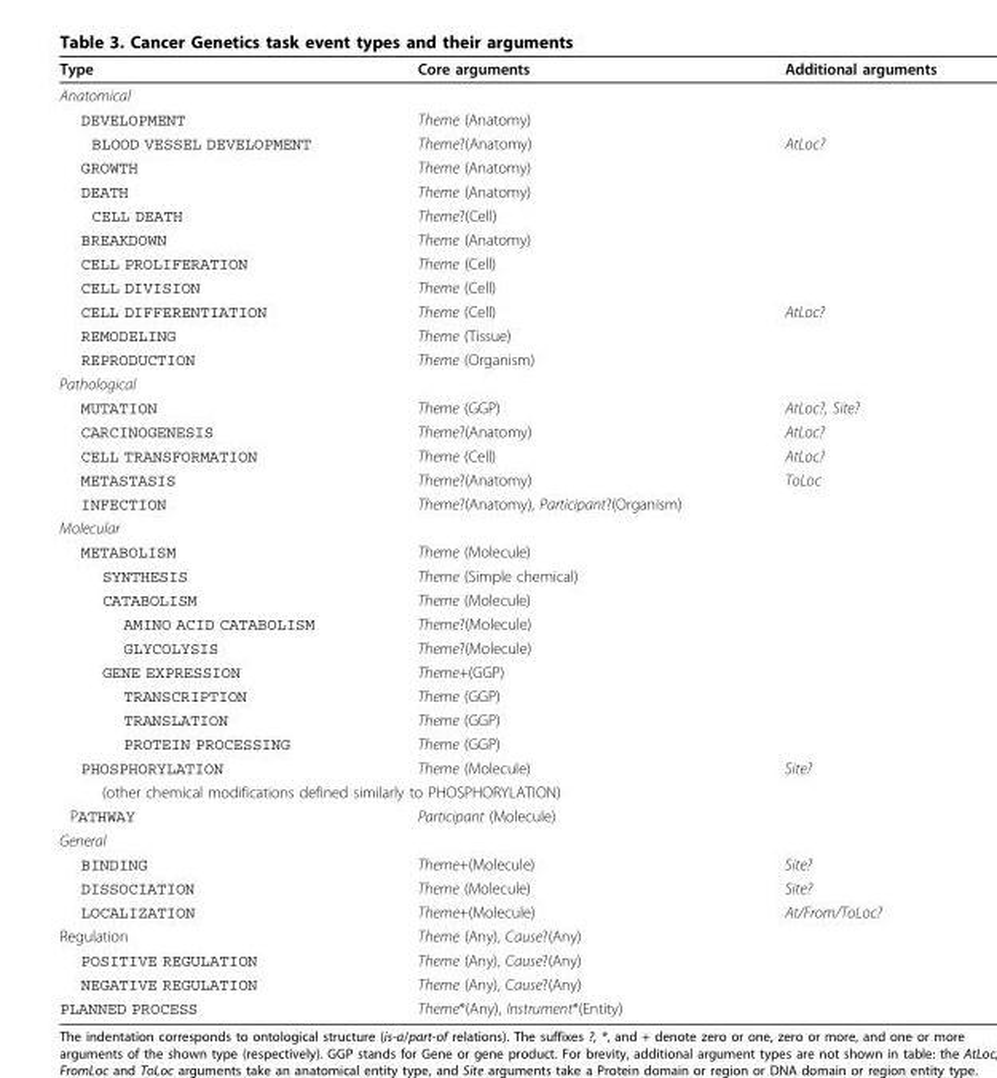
<table><thead><tr><td>Type</td><td>Core arguments</td><td>Additional arguments</td></tr></thead><tbody><tr><td colspan="3">Anatomical</td></tr><tr><td>DEVELOPMENT</td><td>Theme (Anatomy)</td><td></td></tr><tr><td>BLOOD VESSEL DEVELOPMENT</td><td>Theme?(Anatomy)</td><td>AtLoc?</td></tr><tr><td>GROWTH</td><td>Theme (Anatomy)</td><td></td></tr><tr><td>DEATH</td><td>Theme (Anatomy)</td><td></td></tr><tr><td>CELL DEATH</td><td>Theme?(Cell)</td><td></td></tr><tr><td>BREAKDOWN</td><td>Theme (Anatomy)</td><td></td></tr><tr><td>CELL PROLIFERATION</td><td>Theme (Cell)</td><td></td></tr><tr><td>CELL DIVISION</td><td>Theme (Cell)</td><td></td></tr><tr><td>CELL DIFFERENTIATION</td><td>Theme (Cell)</td><td>AtLoc?</td></tr><tr><td>REMODELING</td><td>Theme (Tissue)</td><td></td></tr><tr><td>REPRODUCTION</td><td>Theme (Organism)</td><td></td></tr><tr><td colspan="3">Pathological</td></tr><tr><td>MUTATION</td><td>Theme (GGP)</td><td>AtLoc?, Site?</td></tr><tr><td>CARCINOGENESIS</td><td>Theme?(Anatomy)</td><td>AtLoc?</td></tr><tr><td>CELL TRANSFORMATION</td><td>Theme (Cell)</td><td>AtLoc?</td></tr><tr><td>METASTASIS</td><td>Theme?(Anatomy)</td><td>ToLoc</td></tr><tr><td>INFECTION</td><td>Theme?(Anatomy), Participant?(Organism)</td><td></td></tr><tr><td colspan="3">Molecular</td></tr><tr><td>METABOLISM</td><td>Theme (Molecule)</td><td></td></tr><tr><td>SYNTHESIS</td><td>Theme (Simple chemical)</td><td></td></tr><tr><td>CATABOLISM</td><td>Theme (Molecule)</td><td></td></tr><tr><td>AMINO ACID CATABOLISM</td><td>Theme?(Molecule)</td><td></td></tr><tr><td>GLYCOLYSIS</td><td>Theme?(Molecule)</td><td></td></tr><tr><td>GENE EXPRESSION</td><td>Theme+(GGP)</td><td></td></tr><tr><td>TRANSCRIPTION</td><td>Theme (GGP)</td><td></td></tr><tr><td>TRANSLATION</td><td>Theme (GGP)</td><td></td></tr><tr><td>PROTEIN PROCESSING</td><td>Theme (GGP)</td><td></td></tr><tr><td>PHOSPHORYLATION</td><td>Theme (Molecule)</td><td>Site?</td></tr><tr><td colspan="3">(other chemical modifications defined similarly to PHOSPHORYLATION)</td></tr><tr><td>PATHWAY</td><td>Participant (Molecule)</td><td></td></tr><tr><td colspan="3">General</td></tr><tr><td>BINDING</td><td>Theme+(Molecule)</td><td>Site?</td></tr><tr><td>DISSOCIATION</td><td>Theme (Molecule)</td><td>Site?</td></tr><tr><td>LOCALIZATION</td><td>Theme+(Molecule)</td><td>At/From/ToLoc?</td></tr><tr><td>Regulation</td><td>Theme (Any), Cause?(Any)</td><td></td></tr><tr><td>POSITIVE REGULATION</td><td>Theme (Any), Cause?(Any)</td><td></td></tr><tr><td>NEGATIVE REGULATION</td><td>Theme (Any), Cause?(Any)</td><td></td></tr><tr><td>PLANNED PROCESS</td><td>Theme*(Any), Instrument*(Entity)</td><td></td></tr></tbody></table>